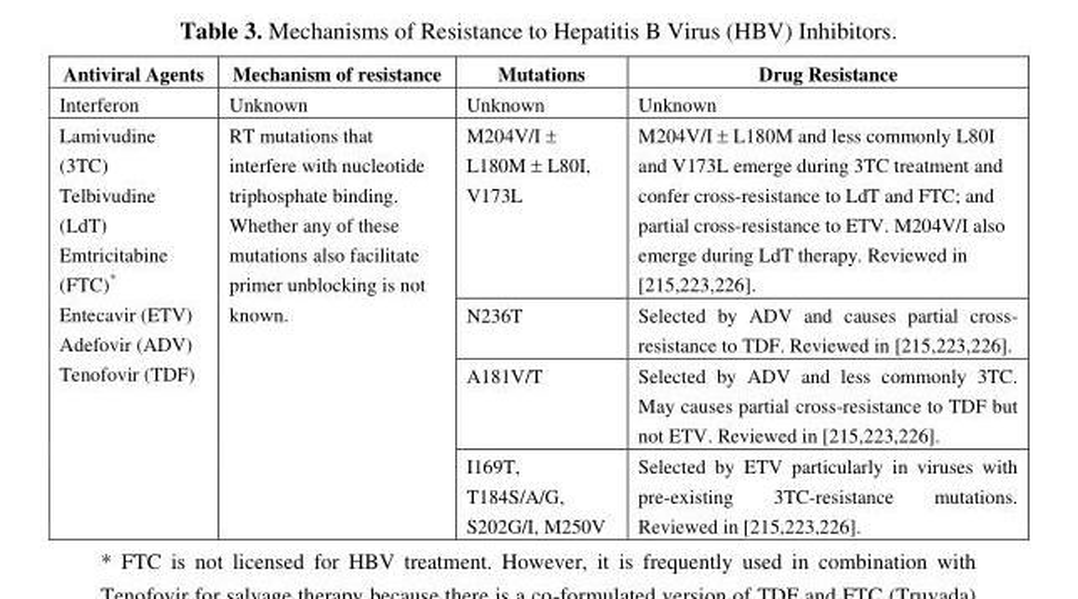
<table><thead><tr><td>Antiviral Agents</td><td>Mechanism of resistance</td><td>Mutations</td><td>Drug Resistance</td></tr></thead><tbody><tr><td>Interferon</td><td>Unknown</td><td>Unknown</td><td>Unknown</td></tr><tr><td rowspan="4">Lamivudine (3TC) Telbivudine (LdT) Emtricitabine (FTC)* Entecavir (ETV) Adefovir (ADV) Tenofovir (TDF)</td><td rowspan="4">RT mutations that interfere with nucleotide triphosphate binding. Whether any of these mutations also facilitate primer unblocking is not known.</td><td>M204V/I ± L180M ± L80I, V173L</td><td>M204V/I ± L180M and less commonly L80I and V173L emerge during 3TC treatment and confer cross-resistance to LdT and FTC; and partial cross-resistance to ETV. M204V/I also emerge during LdT therapy. Reviewed in [215,223,226].</td></tr><tr><td>N236T</td><td>Selected by ADV and causes partial cross- resistance to TDF. Reviewed in [215,223,226].</td></tr><tr><td>A181V/T</td><td>Selected by ADV and less commonly 3TC. May causes partial cross-resistance to TDF but not ETV. Reviewed in [215,223,226].</td></tr><tr><td>I169T, T184S/A/G, S202G/I, M250V</td><td>Selected by ETV particularly in viruses with pre-existing 3TC-resistance mutations. Reviewed in [215,223,226].</td></tr></tbody></table>